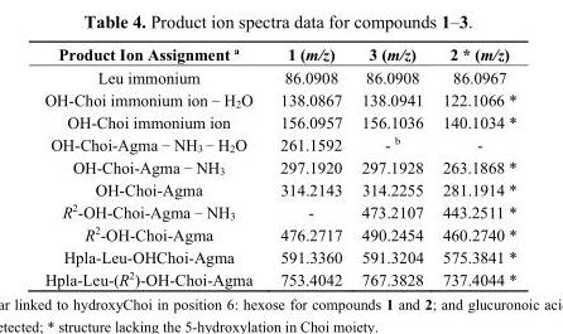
<table><thead><tr><td>Product Ion Assignment <sup>a</sup></td><td>1 (m/z)</td><td>3 (m/z)</td><td>2 * (m/z)</td></tr></thead><tbody><tr><td>Leu immonium</td><td>86.0908</td><td>86.0908</td><td>86.0967</td></tr><tr><td>OH-Choi immonium ion − H<sub>2</sub>O</td><td>138.0867</td><td>138.0941</td><td>122.1066 *</td></tr><tr><td>OH-Choi immonium ion</td><td>156.0957</td><td>156.1036</td><td>140.1034 *</td></tr><tr><td>OH-Choi-Agma − NH<sub>3</sub> − H<sub>2</sub>O</td><td>261.1592</td><td>- <sup>b</sup></td><td>-</td></tr><tr><td>OH-Choi-Agma − NH<sub>3</sub></td><td>297.1920</td><td>297.1928</td><td>263.1868 *</td></tr><tr><td>OH-Choi-Agma</td><td>314.2143</td><td>314.2255</td><td>281.1914 *</td></tr><tr><td>R<sup>2</sup>-OH-Choi-Agma − NH<sub>3</sub></td><td>-</td><td>473.2107</td><td>443.2511 *</td></tr><tr><td>R<sup>2</sup>-OH-Choi-Agma</td><td>476.2717</td><td>490.2454</td><td>460.2740 *</td></tr><tr><td>Hpla-Leu-OHChoi-Agma</td><td>591.3360</td><td>591.3204</td><td>575.3841 *</td></tr><tr><td>Hpla-Leu-(R<sup>2</sup>)-OH-Choi-Agma</td><td>753.4042</td><td>767.3828</td><td>737.4044 *</td></tr></tbody></table>